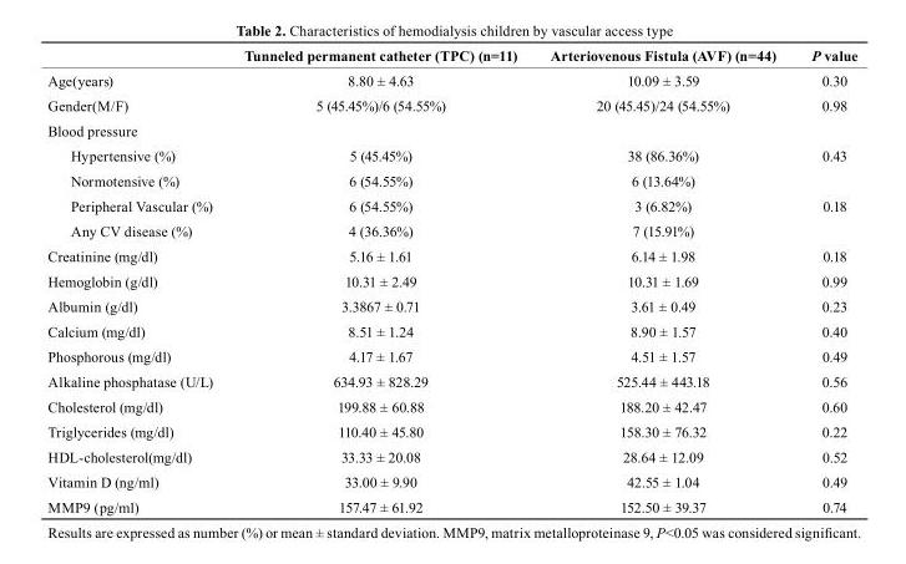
<table><thead><tr><td></td><td>Tunneled permanent catheter (TPC) (n=11)</td><td>Arteriovenous Fistula (AVF) (n=44)</td><td>P value</td></tr></thead><tbody><tr><td>Age(years)</td><td>8.80 ± 4.63</td><td>10.09 ± 3.59</td><td>0.30</td></tr><tr><td>Gender(M/F)</td><td>5 (45.45%)/6 (54.55%)</td><td>20 (45.45)/24 (54.55%)</td><td>0.98</td></tr><tr><td colspan="4">Blood pressure</td></tr><tr><td>Hypertensive (%)</td><td>5 (45.45%)</td><td>38 (86.36%)</td><td>0.43</td></tr><tr><td>Normotensive (%)</td><td>6 (54.55%)</td><td>6 (13.64%)</td><td></td></tr><tr><td>Peripheral Vascular (%)</td><td>6 (54.55%)</td><td>3 (6.82%)</td><td>0.18</td></tr><tr><td>Any CV disease (%)</td><td>4 (36.36%)</td><td>7 (15.91%)</td><td></td></tr><tr><td>Creatinine (mg/dl)</td><td>5.16 ± 1.61</td><td>6.14 ± 1.98</td><td>0.18</td></tr><tr><td>Hemoglobin (g/dl)</td><td>10.31 ± 2.49</td><td>10.31 ± 1.69</td><td>0.99</td></tr><tr><td>Albumin (g/dl)</td><td>3.3867 ± 0.71</td><td>3.61 ± 0.49</td><td>0.23</td></tr><tr><td>Calcium (mg/dl)</td><td>8.51 ± 1.24</td><td>8.90 ± 1.57</td><td>0.40</td></tr><tr><td>Phosphorous (mg/dl)</td><td>4.17 ± 1.67</td><td>4.51 ± 1.57</td><td>0.49</td></tr><tr><td>Alkaline phosphatase (U/L)</td><td>634.93 ± 828.29</td><td>525.44 ± 443.18</td><td>0.56</td></tr><tr><td>Cholesterol (mg/dl)</td><td>199.88 ± 60.88</td><td>188.20 ± 42.47</td><td>0.60</td></tr><tr><td>Triglycerides (mg/dl)</td><td>110.40 ± 45.80</td><td>158.30 ± 76.32</td><td>0.22</td></tr><tr><td>HDL-cholesterol(mg/dl)</td><td>33.33 ± 20.08</td><td>28.64 ± 12.09</td><td>0.52</td></tr><tr><td>Vitamin D (ng/ml)</td><td>33.00 ± 9.90</td><td>42.55 ± 1.04</td><td>0.49</td></tr><tr><td>MMP9 (pg/ml)</td><td>157.47 ± 61.92</td><td>152.50 ± 39.37</td><td>0.74</td></tr></tbody></table>